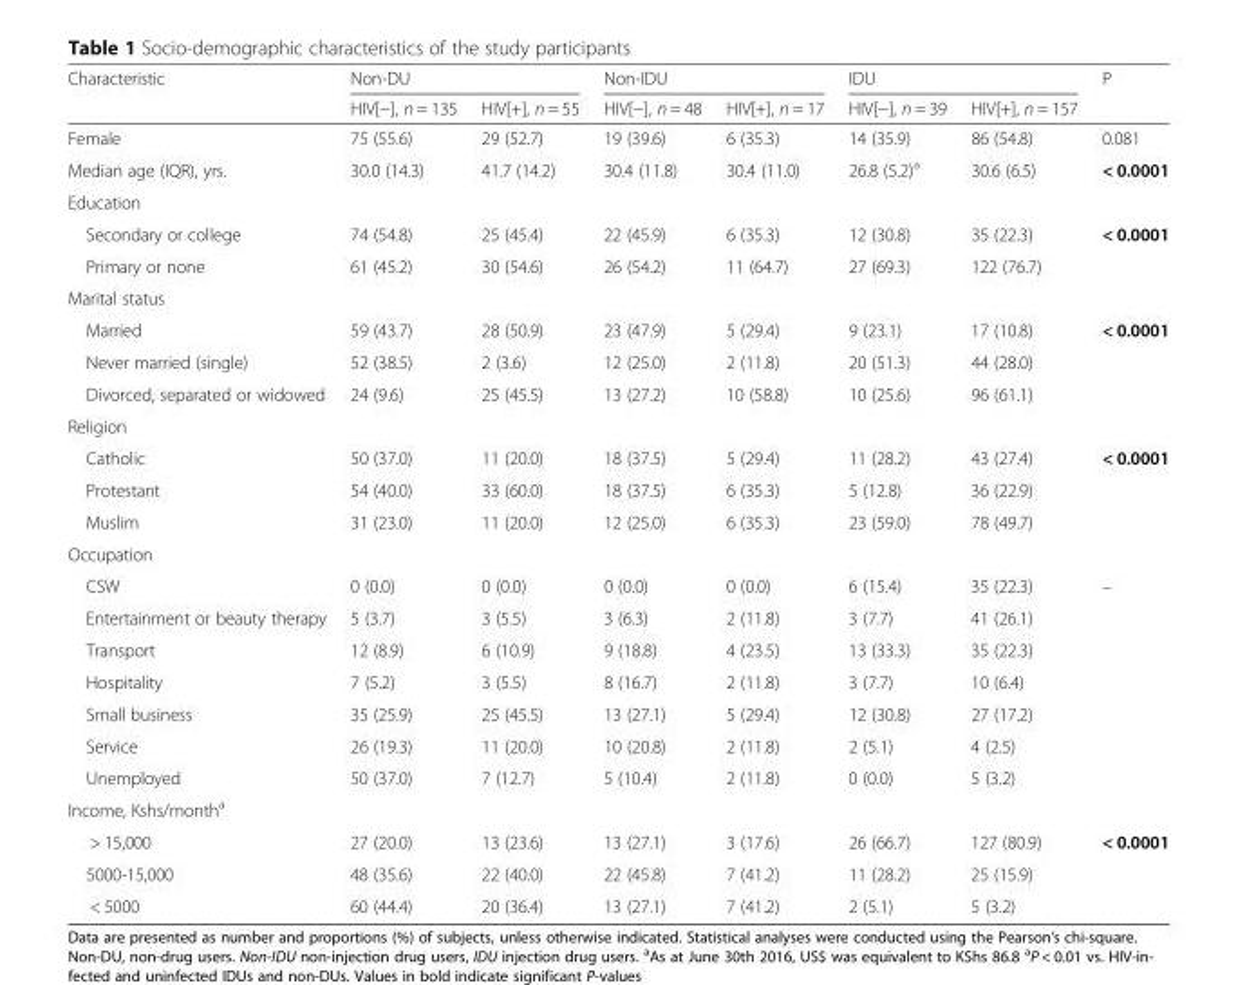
<table><thead><tr><td rowspan="2">Characteristic</td><td colspan="2">Non-DU</td><td colspan="2">Non-IDU</td><td colspan="2">IDU</td><td rowspan="2">P</td></tr><tr><td>HIV[−], n = 135</td><td>HIV[+], n = 55</td><td>HIV[−], n = 48</td><td>HIV[+], n = 17</td><td>HIV[−], n = 39</td><td>HIV[+], n = 157</td></tr></thead><tbody><tr><td>Female</td><td>75 (55.6)</td><td>29 (52.7)</td><td>19 (39.6)</td><td>6 (35.3)</td><td>14 (35.9)</td><td>86 (54.8)</td><td>0.081</td></tr><tr><td>Median age (IQR), yrs.</td><td>30.0 (14.3)</td><td>41.7 (14.2)</td><td>30.4 (11.8)</td><td>30.4 (11.0)</td><td>26.8 (5.2)<sup>a</sup></td><td>30.6 (6.5)</td><td>&lt; 0.0001</td></tr><tr><td colspan="8">Education</td></tr><tr><td>Secondary or college</td><td>74 (54.8)</td><td>25 (45.4)</td><td>22 (45.9)</td><td>6 (35.3)</td><td>12 (30.8)</td><td>35 (22.3)</td><td rowspan="2">&lt; 0.0001</td></tr><tr><td>Primary or none</td><td>61 (45.2)</td><td>30 (54.6)</td><td>26 (54.2)</td><td>11 (64.7)</td><td>27 (69.3)</td><td>122 (76.7)</td></tr><tr><td colspan="8">Marital status</td></tr><tr><td>Married</td><td>59 (43.7)</td><td>28 (50.9)</td><td>23 (47.9)</td><td>5 (29.4)</td><td>9 (23.1)</td><td>17 (10.8)</td><td rowspan="3">&lt; 0.0001</td></tr><tr><td>Never married (single)</td><td>52 (38.5)</td><td>2 (3.6)</td><td>12 (25.0)</td><td>2 (11.8)</td><td>20 (51.3)</td><td>44 (28.0)</td></tr><tr><td>Divorced, separated or widowed</td><td>24 (9.6)</td><td>25 (45.5)</td><td>13 (27.2)</td><td>10 (58.8)</td><td>10 (25.6)</td><td>96 (61.1)</td></tr><tr><td colspan="8">Religion</td></tr><tr><td>Catholic</td><td>50 (37.0)</td><td>11 (20.0)</td><td>18 (37.5)</td><td>5 (29.4)</td><td>11 (28.2)</td><td>43 (27.4)</td><td rowspan="3">&lt; 0.0001</td></tr><tr><td>Protestant</td><td>54 (40.0)</td><td>33 (60.0)</td><td>18 (37.5)</td><td>6 (35.3)</td><td>5 (12.8)</td><td>36 (22.9)</td></tr><tr><td>Muslim</td><td>31 (23.0)</td><td>11 (20.0)</td><td>12 (25.0)</td><td>6 (35.3)</td><td>23 (59.0)</td><td>78 (49.7)</td></tr><tr><td colspan="8">Occupation</td></tr><tr><td>CSW</td><td>0 (0.0)</td><td>0 (0.0)</td><td>0 (0.0)</td><td>0 (0.0)</td><td>6 (15.4)</td><td>35 (22.3)</td><td rowspan="7">–</td></tr><tr><td>Entertainment or beauty therapy</td><td>5 (3.7)</td><td>3 (5.5)</td><td>3 (6.3)</td><td>2 (11.8)</td><td>3 (7.7)</td><td>41 (26.1)</td></tr><tr><td>Transport</td><td>12 (8.9)</td><td>6 (10.9)</td><td>9 (18.8)</td><td>4 (23.5)</td><td>13 (33.3)</td><td>35 (22.3)</td></tr><tr><td>Hospitality</td><td>7 (5.2)</td><td>3 (5.5)</td><td>8 (16.7)</td><td>2 (11.8)</td><td>3 (7.7)</td><td>10 (6.4)</td></tr><tr><td>Small business</td><td>35 (25.9)</td><td>25 (45.5)</td><td>13 (27.1)</td><td>5 (29.4)</td><td>12 (30.8)</td><td>27 (17.2)</td></tr><tr><td>Service</td><td>26 (19.3)</td><td>11 (20.0)</td><td>10 (20.8)</td><td>2 (11.8)</td><td>2 (5.1)</td><td>4 (2.5)</td></tr><tr><td>Unemployed</td><td>50 (37.0)</td><td>7 (12.7)</td><td>5 (10.4)</td><td>2 (11.8)</td><td>0 (0.0)</td><td>5 (3.2)</td></tr><tr><td colspan="8">Income, Kshs/month<sup>a</sup></td></tr><tr><td>&gt; 15,000</td><td>27 (20.0)</td><td>13 (23.6)</td><td>13 (27.1)</td><td>3 (17.6)</td><td>26 (66.7)</td><td>127 (80.9)</td><td rowspan="3">&lt; 0.0001</td></tr><tr><td>5000-15,000</td><td>48 (35.6)</td><td>22 (40.0)</td><td>22 (45.8)</td><td>7 (41.2)</td><td>11 (28.2)</td><td>25 (15.9)</td></tr><tr><td>&lt; 5000</td><td>60 (44.4)</td><td>20 (36.4)</td><td>13 (27.1)</td><td>7 (41.2)</td><td>2 (5.1)</td><td>5 (3.2)</td></tr></tbody></table>